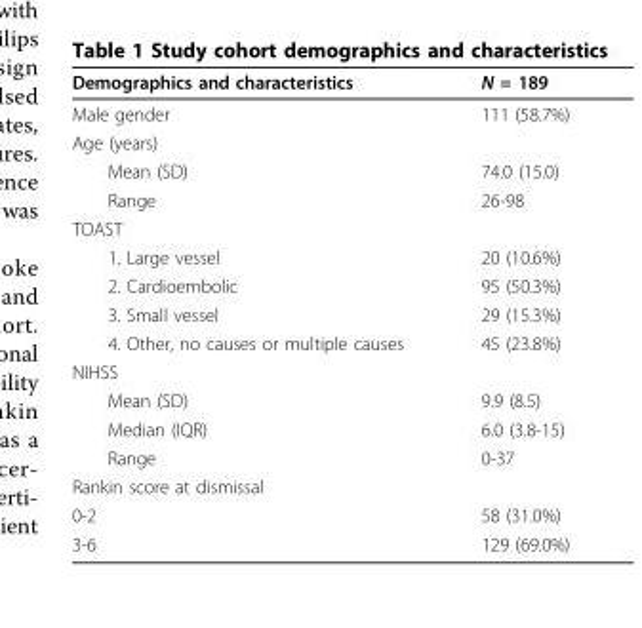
<table><thead><tr><td>Demographics and characteristics</td><td>N = 189</td></tr></thead><tbody><tr><td>Male gender</td><td>111 (58.7%)</td></tr><tr><td colspan="2">Age (years)</td></tr><tr><td>Mean (SD)</td><td>74.0 (15.0)</td></tr><tr><td>Range</td><td>26-98</td></tr><tr><td colspan="2">TOAST</td></tr><tr><td>1. Large vessel</td><td>20 (10.6%)</td></tr><tr><td>2. Cardioembolic</td><td>95 (50.3%)</td></tr><tr><td>3. Small vessel</td><td>29 (15.3%)</td></tr><tr><td>4. Other, no causes or multiple causes</td><td>45 (23.8%)</td></tr><tr><td colspan="2">NIHSS</td></tr><tr><td>Mean (SD)</td><td>9.9 (8.5)</td></tr><tr><td>Median (IQR)</td><td>6.0 (3.8-15)</td></tr><tr><td>Range</td><td>0-37</td></tr><tr><td colspan="2">Rankin score at dismissal</td></tr><tr><td>0-2</td><td>58 (31.0%)</td></tr><tr><td>3-6</td><td>129 (69.0%)</td></tr></tbody></table>